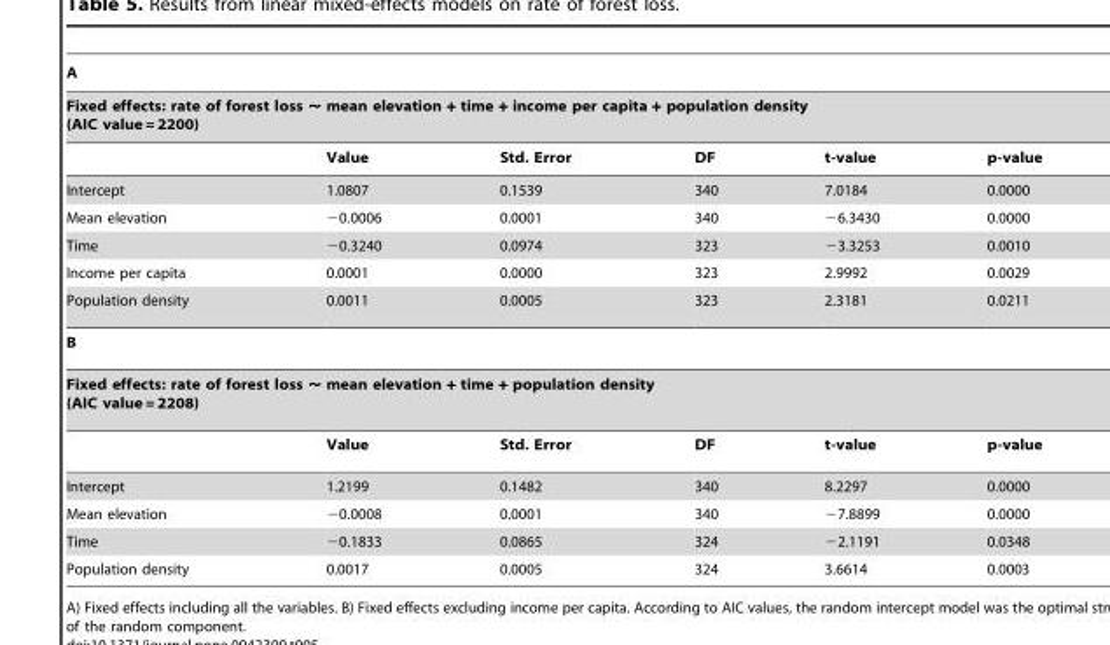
<table><thead><tr><td rowspan="2" colspan="6">A Fixed effects: rate of forest loss ∼ mean elevation + time + income per capita + population density (AIC value = 2200)</td></tr><tr></tr><tr><td></td><td>Value</td><td>Std. Error</td><td>DF</td><td>t-value</td><td>p-value</td></tr></thead><tbody><tr><td>Intercept</td><td>1.0807</td><td>0.1539</td><td>340</td><td>7.0184</td><td>0.0000</td></tr><tr><td>Mean elevation</td><td>−0.0006</td><td>0.0001</td><td>340</td><td>−6.3430</td><td>0.0000</td></tr><tr><td>Time</td><td>−0.3240</td><td>0.0974</td><td>323</td><td>−3.3253</td><td>0.0010</td></tr><tr><td>Income per capita</td><td>0.0001</td><td>0.0000</td><td>323</td><td>2.9992</td><td>0.0029</td></tr><tr><td>Population density</td><td>0.0011</td><td>0.0005</td><td>323</td><td>2.3181</td><td>0.0211</td></tr><tr><td colspan="6">B</td></tr><tr><td colspan="6">Fixed effects: rate of forest loss ∼ mean elevation + time + population density (AIC value = 2208)</td></tr><tr><td></td><td>Value</td><td>Std. Error</td><td>DF</td><td>t-value</td><td>p-value</td></tr><tr><td>Intercept</td><td>1.2199</td><td>0.1482</td><td>340</td><td>8.2297</td><td>0.0000</td></tr><tr><td>Mean elevation</td><td>−0.0008</td><td>0.0001</td><td>340</td><td>−7.8899</td><td>0.0000</td></tr><tr><td>Time</td><td>−0.1833</td><td>0.0865</td><td>324</td><td>−2.1191</td><td>0.0348</td></tr><tr><td>Population density</td><td>0.0017</td><td>0.0005</td><td>324</td><td>3.6614</td><td>0.0003</td></tr></tbody></table>